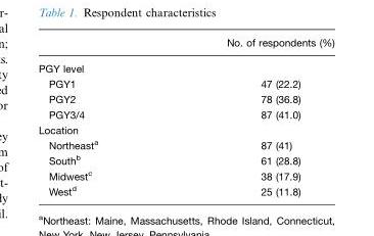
<table><thead><tr><td></td><td>No. of respondents (%)</td></tr></thead><tbody><tr><td colspan="2">PGY level</td></tr><tr><td>PGY1</td><td>47 (22.2)</td></tr><tr><td>PGY2</td><td>78 (36.8)</td></tr><tr><td>PGY3/4</td><td>87 (41.0)</td></tr><tr><td colspan="2">Location</td></tr><tr><td>Northeast<sup>a</sup></td><td>87 (41)</td></tr><tr><td>South<sup>b</sup></td><td>61 (28.8)</td></tr><tr><td>Midwest<sup>c</sup></td><td>38 (17.9)</td></tr><tr><td>West<sup>d</sup></td><td>25 (11.8)</td></tr></tbody></table>